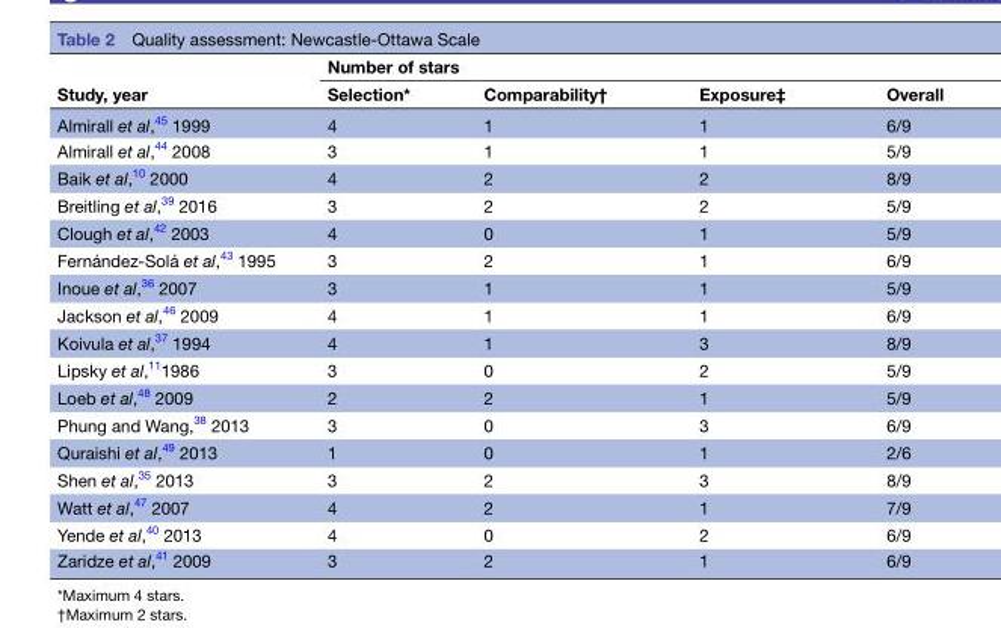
<table><thead><tr><td rowspan="2">Study, year</td><td colspan="4">Number of stars</td></tr><tr><td>Selection*</td><td>Comparability†</td><td>Exposure‡</td><td>Overall</td></tr></thead><tbody><tr><td>Almirall et al,<sup>45</sup> 1999</td><td>4</td><td>1</td><td>1</td><td>6/9</td></tr><tr><td>Almirall et al,<sup>44</sup> 2008</td><td>3</td><td>1</td><td>1</td><td>5/9</td></tr><tr><td>Baik et al,<sup>10</sup> 2000</td><td>4</td><td>2</td><td>2</td><td>8/9</td></tr><tr><td>Breitling et al,<sup>39</sup> 2016</td><td>3</td><td>2</td><td>2</td><td>5/9</td></tr><tr><td>Clough et al,<sup>42</sup> 2003</td><td>4</td><td>0</td><td>1</td><td>5/9</td></tr><tr><td>Fernández-Solá et al,<sup>43</sup> 1995</td><td>3</td><td>2</td><td>1</td><td>6/9</td></tr><tr><td>Inoue et al,<sup>36</sup> 2007</td><td>3</td><td>1</td><td>1</td><td>5/9</td></tr><tr><td>Jackson et al,<sup>46</sup> 2009</td><td>4</td><td>1</td><td>1</td><td>6/9</td></tr><tr><td>Koivula et al,<sup>37</sup> 1994</td><td>4</td><td>1</td><td>3</td><td>8/9</td></tr><tr><td>Lipsky et al,<sup>11</sup>1986</td><td>3</td><td>0</td><td>2</td><td>5/9</td></tr><tr><td>Loeb et al,<sup>48</sup> 2009</td><td>2</td><td>2</td><td>1</td><td>5/9</td></tr><tr><td>Phung and Wang,<sup>38</sup> 2013</td><td>3</td><td>0</td><td>3</td><td>6/9</td></tr><tr><td>Quraishi et al,<sup>49</sup> 2013</td><td>1</td><td>0</td><td>1</td><td>2/6</td></tr><tr><td>Shen et al,<sup>35</sup> 2013</td><td>3</td><td>2</td><td>3</td><td>8/9</td></tr><tr><td>Watt et al,<sup>47</sup> 2007</td><td>4</td><td>2</td><td>1</td><td>7/9</td></tr><tr><td>Yende et al,<sup>40</sup> 2013</td><td>4</td><td>0</td><td>2</td><td>6/9</td></tr><tr><td>Zaridze et al,<sup>41</sup> 2009</td><td>3</td><td>2</td><td>1</td><td>6/9</td></tr></tbody></table>